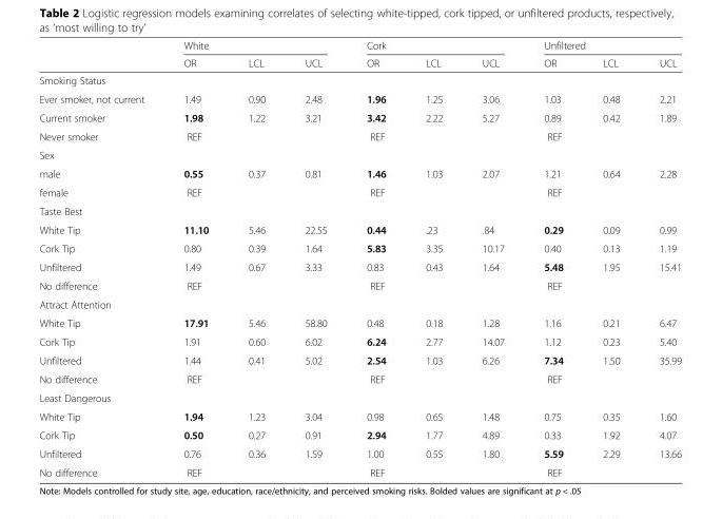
<table><thead><tr><td rowspan="2"></td><td colspan="3">White</td><td colspan="3">Cork</td><td colspan="3">Unfiltered</td></tr><tr><td>OR</td><td>LCL</td><td>UCL</td><td>OR</td><td>LCL</td><td>UCL</td><td>OR</td><td>LCL</td><td>UCL</td></tr></thead><tbody><tr><td colspan="10">Smoking Status</td></tr><tr><td>Ever smoker, not current</td><td>1.49</td><td>0.90</td><td>2.48</td><td>1.96</td><td>1.25</td><td>3.06</td><td>1.03</td><td>0.48</td><td>2.21</td></tr><tr><td>Current smoker</td><td>1.98</td><td>1.22</td><td>3.21</td><td>3.42</td><td>2.22</td><td>5.27</td><td>0.89</td><td>0.42</td><td>1.89</td></tr><tr><td>Never smoker</td><td>REF</td><td></td><td></td><td>REF</td><td></td><td></td><td>REF</td><td></td><td></td></tr><tr><td colspan="10">Sex</td></tr><tr><td>male</td><td>0.55</td><td>0.37</td><td>0.81</td><td>1.46</td><td>1.03</td><td>2.07</td><td>1.21</td><td>0.64</td><td>2.28</td></tr><tr><td>female</td><td>REF</td><td></td><td></td><td>REF</td><td></td><td></td><td>REF</td><td></td><td></td></tr><tr><td colspan="10">Taste Best</td></tr><tr><td>White Tip</td><td>11.10</td><td>5.46</td><td>22.55</td><td>0.44</td><td>.23</td><td>.84</td><td>0.29</td><td>0.09</td><td>0.99</td></tr><tr><td>Cork Tip</td><td>0.80</td><td>0.39</td><td>1.64</td><td>5.83</td><td>3.35</td><td>10.17</td><td>0.40</td><td>0.13</td><td>1.19</td></tr><tr><td>Unfiltered</td><td>1.49</td><td>0.67</td><td>3.33</td><td>0.83</td><td>0.43</td><td>1.64</td><td>5.48</td><td>1.95</td><td>15.41</td></tr><tr><td>No difference</td><td>REF</td><td></td><td></td><td>REF</td><td></td><td></td><td>REF</td><td></td><td></td></tr><tr><td colspan="10">Attract Attention</td></tr><tr><td>White Tip</td><td>17.91</td><td>5.46</td><td>58.80</td><td>0.48</td><td>0.18</td><td>1.28</td><td>1.16</td><td>0.21</td><td>6.47</td></tr><tr><td>Cork Tip</td><td>1.91</td><td>0.60</td><td>6.02</td><td>6.24</td><td>2.77</td><td>14.07</td><td>1.12</td><td>0.23</td><td>5.40</td></tr><tr><td>Unfiltered</td><td>1.44</td><td>0.41</td><td>5.02</td><td>2.54</td><td>1.03</td><td>6.26</td><td>7.34</td><td>1.50</td><td>35.99</td></tr><tr><td>No difference</td><td>REF</td><td></td><td></td><td>REF</td><td></td><td></td><td>REF</td><td></td><td></td></tr><tr><td colspan="10">Least Dangerous</td></tr><tr><td>White Tip</td><td>1.94</td><td>1.23</td><td>3.04</td><td>0.98</td><td>0.65</td><td>1.48</td><td>0.75</td><td>0.35</td><td>1.60</td></tr><tr><td>Cork Tip</td><td>0.50</td><td>0.27</td><td>0.91</td><td>2.94</td><td>1.77</td><td>4.89</td><td>0.33</td><td>1.92</td><td>4.07</td></tr><tr><td>Unfiltered</td><td>0.76</td><td>0.36</td><td>1.59</td><td>1.00</td><td>0.55</td><td>1.80</td><td>5.59</td><td>2.29</td><td>13.66</td></tr><tr><td>No difference</td><td>REF</td><td></td><td></td><td>REF</td><td></td><td></td><td>REF</td><td></td><td></td></tr></tbody></table>